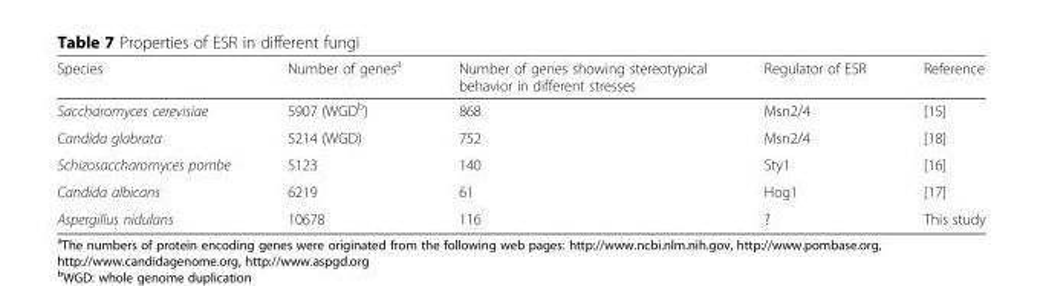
<table><thead><tr><td>Species</td><td>Number of genes<sup>a</sup></td><td>Number of genes showing stereotypical behavior in different stresses</td><td>Regulator of ESR</td><td>Reference</td></tr></thead><tbody><tr><td>Saccharomyces cerevisiae</td><td>5907 (WGD<sup>b</sup>)</td><td>868</td><td>Msn2/4</td><td>[15]</td></tr><tr><td>Candida glabrata</td><td>5214 (WGD)</td><td>752</td><td>Msn2/4</td><td>[18]</td></tr><tr><td>Schizosaccharomyces pombe</td><td>5123</td><td>140</td><td>Sty1</td><td>[16]</td></tr><tr><td>Candida albicans</td><td>6219</td><td>61</td><td>Hog1</td><td>[17]</td></tr><tr><td>Aspergillus nidulans</td><td>10678</td><td>116</td><td>?</td><td>This study</td></tr></tbody></table>